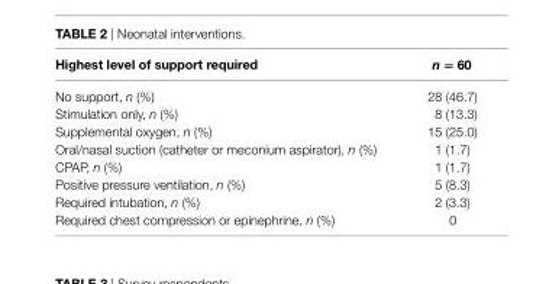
<table><thead><tr><td>highest level of support required</td><td>n = 60</td></tr></thead><tbody><tr><td>No support, n (%)</td><td>28 (46.7)</td></tr><tr><td>Stimulation only, n (%)</td><td>8 (13.3)</td></tr><tr><td>Supplemental oxygen, n (%)</td><td>15 (25.0)</td></tr><tr><td>Oral/nasal suction (catheter or meconium aspirator), n (%)</td><td>1 (1.7)</td></tr><tr><td>CPAP, n (%)</td><td>1 (1.7)</td></tr><tr><td>Positive pressure ventilation, n (%)</td><td>5 (8.3)</td></tr><tr><td>Required intubation, n (%)</td><td>2 (3.3)</td></tr><tr><td>Required chest compression or epinephrine, n (%)</td><td>0</td></tr></tbody></table>